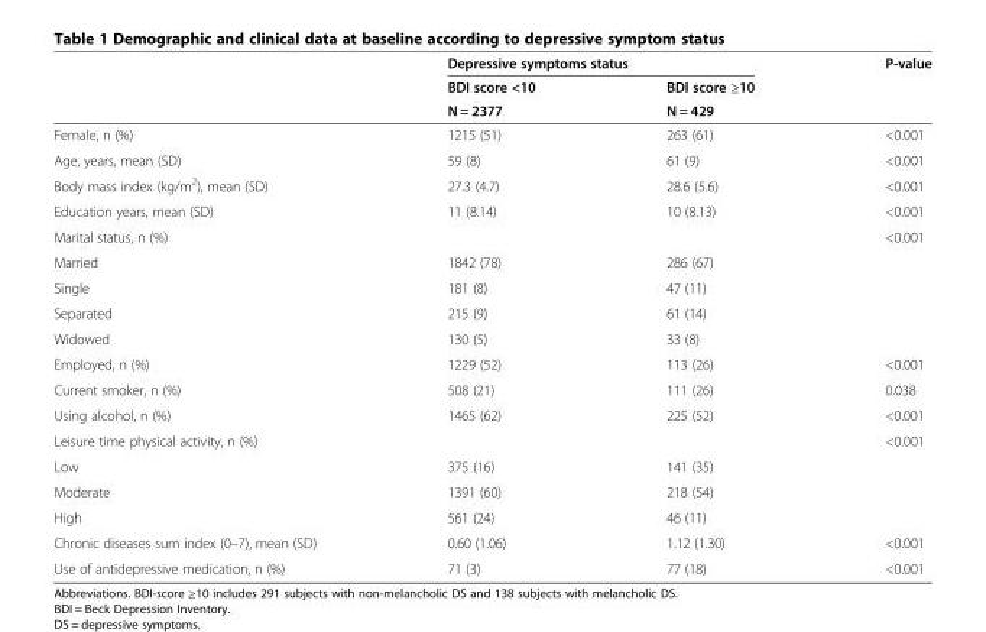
<table><thead><tr><td rowspan="2"></td><td colspan="2">Depressive symptoms status</td><td rowspan="2">P-value</td></tr><tr><td>BDI score &lt;10 N = 2377</td><td>BDI score ≥10 N = 429</td></tr></thead><tbody><tr><td>Female, n (%)</td><td>1215 (51)</td><td>263 (61)</td><td>&lt;0.001</td></tr><tr><td>Age, years, mean (SD)</td><td>59 (8)</td><td>61 (9)</td><td>&lt;0.001</td></tr><tr><td>Body mass index (kg/m<sup>2</sup>), mean (SD)</td><td>27.3 (4.7)</td><td>28.6 (5.6)</td><td>&lt;0.001</td></tr><tr><td>Education years, mean (SD)</td><td>11 (8.14)</td><td>10 (8.13)</td><td>&lt;0.001</td></tr><tr><td>Marital status, n (%)</td><td></td><td></td><td>&lt;0.001</td></tr><tr><td>Married</td><td>1842 (78)</td><td>286 (67)</td><td></td></tr><tr><td>Single</td><td>181 (8)</td><td>47 (11)</td><td></td></tr><tr><td>Separated</td><td>215 (9)</td><td>61 (14)</td><td></td></tr><tr><td>Widowed</td><td>130 (5)</td><td>33 (8)</td><td></td></tr><tr><td>Employed, n (%)</td><td>1229 (52)</td><td>113 (26)</td><td>&lt;0.001</td></tr><tr><td>Current smoker, n (%)</td><td>508 (21)</td><td>111 (26)</td><td>0.038</td></tr><tr><td>Using alcohol, n (%)</td><td>1465 (62)</td><td>225 (52)</td><td>&lt;0.001</td></tr><tr><td>Leisure time physical activity, n (%)</td><td></td><td></td><td>&lt;0.001</td></tr><tr><td>Low</td><td>375 (16)</td><td>141 (35)</td><td></td></tr><tr><td>Moderate</td><td>1391 (60)</td><td>218 (54)</td><td></td></tr><tr><td>High</td><td>561 (24)</td><td>46 (11)</td><td></td></tr><tr><td>Chronic diseases sum index (0–7), mean (SD)</td><td>0.60 (1.06)</td><td>1.12 (1.30)</td><td>&lt;0.001</td></tr><tr><td>Use of antidepressive medication, n (%)</td><td>71 (3)</td><td>77 (18)</td><td>&lt;0.001</td></tr></tbody></table>